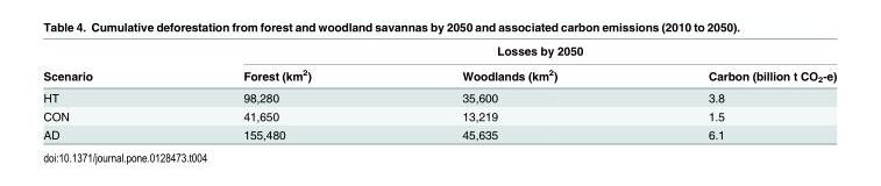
<table><thead><tr><td rowspan="2">Scenario</td><td colspan="3">Losses by 2050</td></tr><tr><td>Forest (km<sup>2</sup>)</td><td>Woodlands (km<sup>2</sup>)</td><td>Carbon (billion t CO<sub>2</sub>-e)</td></tr></thead><tbody><tr><td>HT</td><td>98,280</td><td>35,600</td><td>3.8</td></tr><tr><td>CON</td><td>41,650</td><td>13,219</td><td>1.5</td></tr><tr><td>AD</td><td>155,480</td><td>45,635</td><td>6.1</td></tr></tbody></table>